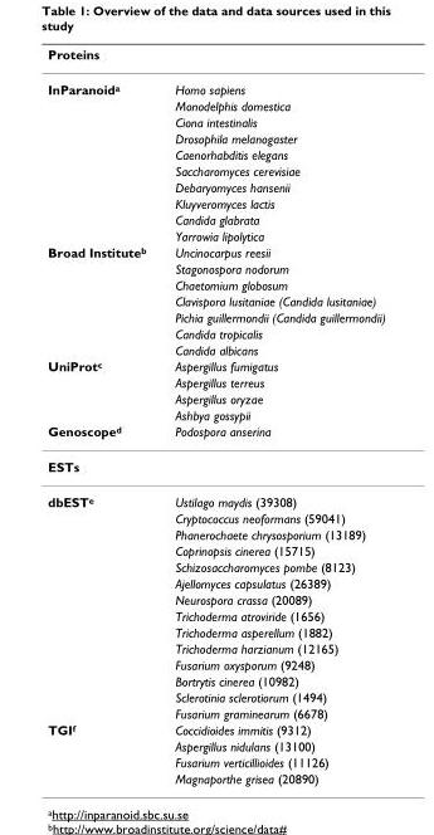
<table><thead><tr><td>Proteins</td><td></td></tr></thead><tbody><tr><td rowspan="10">InParanoid<sup>a</sup></td><td>Homo sapiens</td></tr><tr><td>Monodelphis domestica</td></tr><tr><td>Ciona intestinalis</td></tr><tr><td>Drosophila melanogaster</td></tr><tr><td>Caenorhabditis elegans</td></tr><tr><td>Saccharomyces cerevisiae</td></tr><tr><td>Debaryomyces hansenii</td></tr><tr><td>Kluyveromyces lactis</td></tr><tr><td>Candida glabrata</td></tr><tr><td>Yarrowia lipolytica</td></tr><tr><td rowspan="7">Broad Institute<sup>b</sup></td><td>Uncinocarpus reesii</td></tr><tr><td>Stagonospora nodorum</td></tr><tr><td>Chaetomium globosum</td></tr><tr><td>Clavispora lusitaniae (Candida lusitaniae)</td></tr><tr><td>Pichia guillermondii (Candida guillermondii)</td></tr><tr><td>Candida tropicalis</td></tr><tr><td>Candida albicans</td></tr><tr><td rowspan="4">UniProt<sup>c</sup></td><td>Aspergillus fumigatus</td></tr><tr><td>Aspergillus terreus</td></tr><tr><td>Aspergillus oryzae</td></tr><tr><td>Ashbya gossypii</td></tr><tr><td>Genoscope<sup>d</sup></td><td>Podospora anserina</td></tr><tr><td colspan="2">ESTs</td></tr><tr><td rowspan="14">dbEST<sup>e</sup></td><td>Ustilago maydis (39308)</td></tr><tr><td>Cryptococcus neoformans (59041)</td></tr><tr><td>Phanerochaete chrysosporium (13189)</td></tr><tr><td>Coprinopsis cinerea (15715)</td></tr><tr><td>Schizosaccharomyces pombe (8123)</td></tr><tr><td>Ajellomyces capsulatus (26389)</td></tr><tr><td>Neurospora crassa (20089)</td></tr><tr><td>Trichoderma atroviride (1656)</td></tr><tr><td>Trichoderma asperellum (1882)</td></tr><tr><td>Trichoderma harzianum (12165)</td></tr><tr><td>Fusarium oxysporum (9248)</td></tr><tr><td>Bortrytis cinerea (10982)</td></tr><tr><td>Sclerotinia sclerotiorum (1494)</td></tr><tr><td>Fusarium graminearum (6678)</td></tr><tr><td rowspan="4">TGI<sup>f</sup></td><td>Coccidioides immitis (9312)</td></tr><tr><td>Aspergillus nidulans (13100)</td></tr><tr><td>Fusarium verticillioides (11126)</td></tr><tr><td>Magnaporthe grisea (20890)</td></tr></tbody></table>